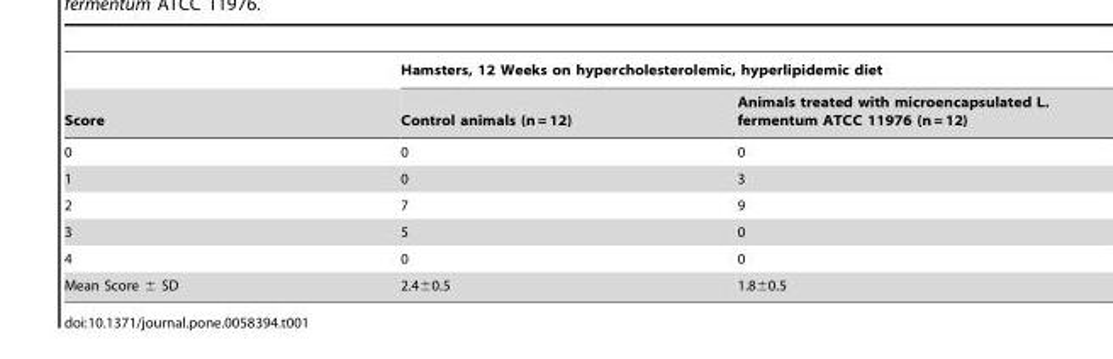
<table><thead><tr><td rowspan="2">Score</td><td colspan="2">Hamsters, 12 Weeks on hypercholesterolemic, hyperlipidemic diet</td></tr><tr><td>Control animals (n = 12)</td><td>Animals treated with microencapsulated L. fermentum ATCC 11976 (n = 12)</td></tr></thead><tbody><tr><td>0</td><td>0</td><td>0</td></tr><tr><td>1</td><td>0</td><td>3</td></tr><tr><td>2</td><td>7</td><td>9</td></tr><tr><td>3</td><td>5</td><td>0</td></tr><tr><td>4</td><td>0</td><td>0</td></tr><tr><td>Mean Score ± SD</td><td>2.4±0.5</td><td>1.8±0.5</td></tr></tbody></table>